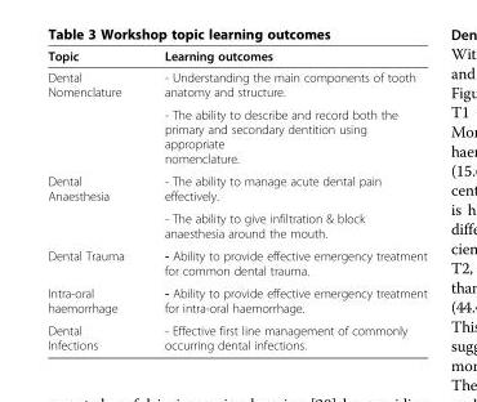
<table><thead><tr><td>Topic</td><td>Learning outcomes</td></tr></thead><tbody><tr><td rowspan="2">Dental Nomenclature</td><td>- Understanding the main components of tooth anatomy and structure.</td></tr><tr><td>- The ability to describe and record both the primary and secondary dentition using appropriate nomenclature.</td></tr><tr><td rowspan="2">Dental Anaesthesia</td><td>- The ability to manage acute dental pain effectively.</td></tr><tr><td>- The ability to give infiltration &amp; block anaesthesia around the mouth.</td></tr><tr><td>Dental Trauma</td><td>- Ability to provide effective emergency treatment for common dental trauma.</td></tr><tr><td>Intra-oral haemorrhage</td><td>- Ability to provide effective emergency treatment for intra-oral haemorrhage.</td></tr><tr><td>Dental Infections</td><td>- Effective first line management of commonly occurring dental infections.</td></tr></tbody></table>